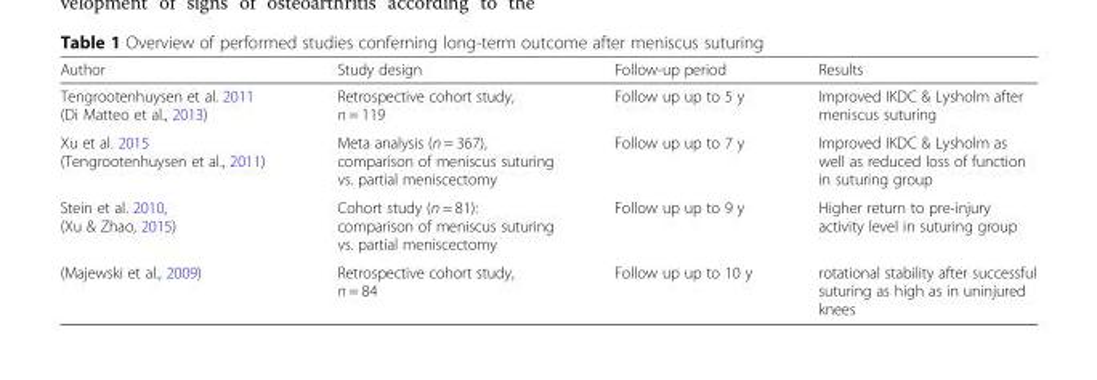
<table><thead><tr><td>Author</td><td>Study design</td><td>Follow-up period</td><td>Results</td></tr></thead><tbody><tr><td>Tengrootenhuysen et al. 2011 (Di Matteo et al., 2013)</td><td>Retrospective cohort study, n = 119</td><td>Follow up up to 5 y</td><td>Improved IKDC &amp; Lysholm after meniscus suturing</td></tr><tr><td>Xu et al. 2015 (Tengrootenhuysen et al., 2011)</td><td>Meta analysis (n = 367), comparison of meniscus suturing vs. partial meniscectomy</td><td>Follow up up to 7 y</td><td>Improved IKDC &amp; Lysholm as well as reduced loss of function in suturing group</td></tr><tr><td>Stein et al. 2010, (Xu &amp; Zhao, 2015)</td><td>Cohort study (n = 81): comparison of meniscus suturing vs. partial meniscectomy</td><td>Follow up up to 9 y</td><td>Higher return to pre-injury activity level in suturing group</td></tr><tr><td>(Majewski et al., 2009)</td><td>Retrospective cohort study, n = 84</td><td>Follow up up to 10 y</td><td>rotational stability after successful suturing as high as in uninjured knees</td></tr></tbody></table>